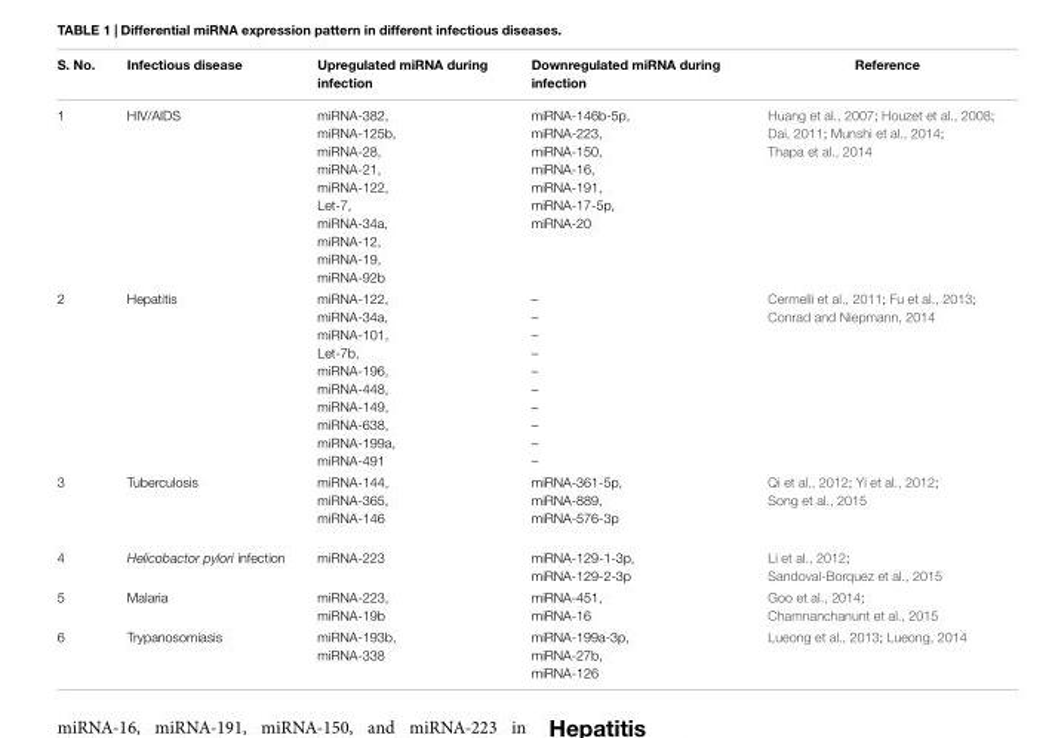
<table><thead><tr><td>S. No.</td><td>Infectious disease</td><td>Upregulated miRNA during infection</td><td>Downregulated miRNA during infection</td><td>Reference</td></tr></thead><tbody><tr><td>1</td><td>HIV/AIDS</td><td>miRNA-382, miRNA-125b, miRNA-28, miRNA-21, miRNA-122, Let-7, miRNA-34a, miRNA-12, miRNA-19, miRNA-92b</td><td>miRNA-146b-5p, miRNA-223, miRNA-150, miRNA-16, miRNA-191, miRNA-17-5p, miRNA-20</td><td>Huang et al., 2007; Houzet et al., 2008; Dai, 2011; Munshi et al., 2014; Thapa et al., 2014</td></tr><tr><td>2</td><td>Hepatitis</td><td>miRNA-122, miRNA-34a, miRNA-101, Let-7b, miRNA-196, miRNA-448, miRNA-149, miRNA-638, miRNA-199a, miRNA-491</td><td>– – – – – – – – – –</td><td>Cermelli et al., 2011; Fu et al., 2013; Conrad and Niepmann, 2014</td></tr><tr><td>3</td><td>Tuberculosis</td><td>miRNA-144, miRNA-365, miRNA-146</td><td>miRNA-361-5p, miRNA-889, miRNA-576-3p</td><td>Qi et al., 2012; Yi et al., 2012; Song et al., 2015</td></tr><tr><td>4</td><td>Helicobactor pylori infection</td><td>miRNA-223</td><td>miRNA-129-1-3p, miRNA-129-2-3p</td><td>Li et al., 2012; Sandoval-Borquez et al., 2015</td></tr><tr><td>5</td><td>Malaria</td><td>miRNA-223, miRNA-19b</td><td>miRNA-451, miRNA-16</td><td>Goo et al., 2014; Chamnanchanunt et al., 2015</td></tr><tr><td>6</td><td>Trypanosomiasis</td><td>miRNA-193b, miRNA-338</td><td>miRNA-199a-3p, miRNA-27b, miRNA-126</td><td>Lueong et al., 2013; Lueong, 2014</td></tr></tbody></table>